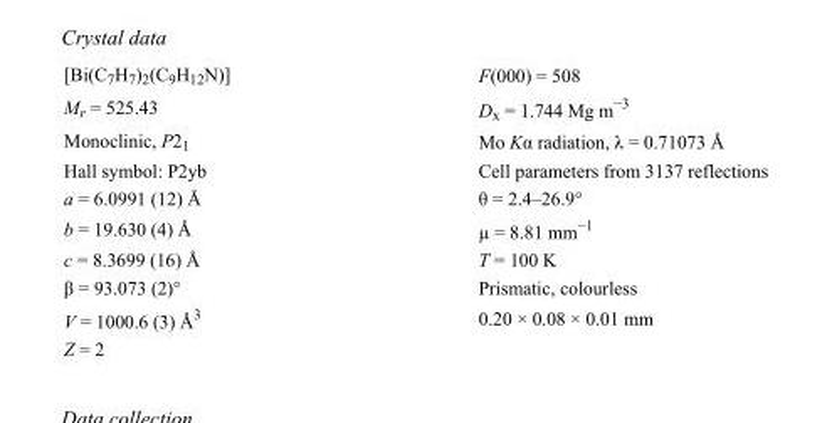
<table><tbody><tr><td>[Bi(C<sub>7</sub>H<sub>7</sub>)<sub>2</sub>(C<sub>9</sub>H<sub>12</sub>N)]</td><td>F(000) = 508</td></tr><tr><td>M<sub>r</sub> = 525.43</td><td>D<sub>x</sub> = 1.744 Mg m<sup>−3</sup></td></tr><tr><td>Monoclinic, P2<sub>1</sub></td><td>Mo Kα radiation, λ = 0.71073 Å</td></tr><tr><td>Hall symbol: P2yb</td><td>Cell parameters from 3137 reflections</td></tr><tr><td>a = 6.0991 (12) Å</td><td>θ = 2.4–26.9°</td></tr><tr><td>b = 19.630 (4) Å</td><td>µ = 8.81 mm<sup>−1</sup></td></tr><tr><td>c = 8.3699 (16) Å</td><td>T = 100 K</td></tr><tr><td>β = 93.073 (2)°</td><td>Prismatic, colourless</td></tr><tr><td>V = 1000.6 (3) Å<sup>3</sup></td><td>0.20 × 0.08 × 0.01 mm</td></tr><tr><td>Z = 2</td><td></td></tr></tbody></table>